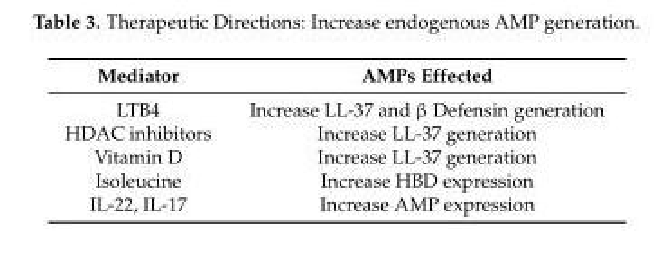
<table><thead><tr><td>Mediator</td><td>AMPs Effected</td></tr></thead><tbody><tr><td>LTB4</td><td>Increase LL-37 and β Defensin generation</td></tr><tr><td>HDAC inhibitors</td><td>Increase LL-37 generation</td></tr><tr><td>Vitamin D</td><td>Increase LL-37 generation</td></tr><tr><td>Isoleucine</td><td>Increase HBD expression</td></tr><tr><td>IL-22, IL-17</td><td>Increase AMP expression</td></tr></tbody></table>